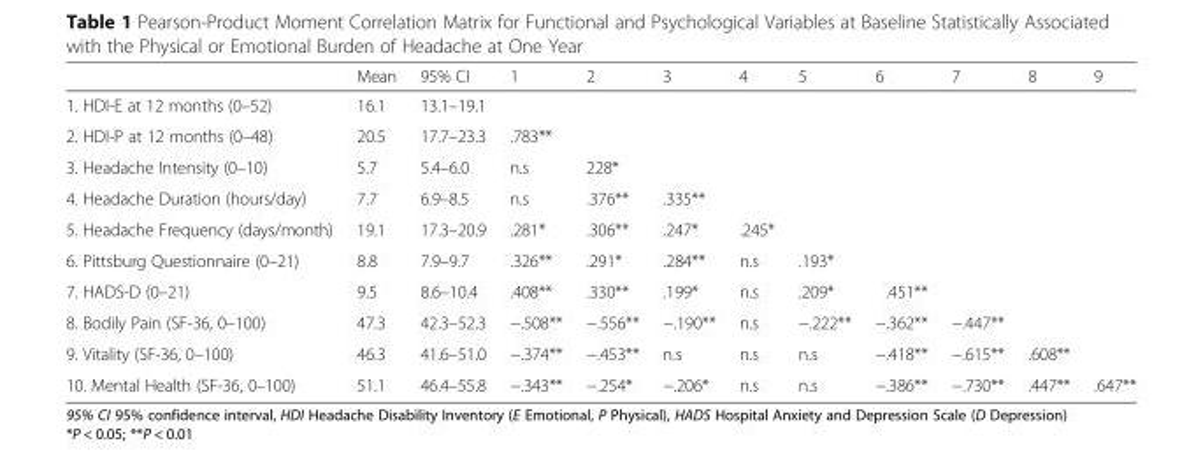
<table><thead><tr><td></td><td>Mean</td><td>95% CI</td><td>1</td><td>2</td><td>3</td><td>4</td><td>5</td><td>6</td><td>7</td><td>8</td><td>9</td></tr></thead><tbody><tr><td>1. HDI-E at 12 months (0–52)</td><td>16.1</td><td>13.1–19.1</td><td></td><td></td><td></td><td></td><td></td><td></td><td></td><td></td><td></td></tr><tr><td>2. HDI-P at 12 months (0–48)</td><td>20.5</td><td>17.7–23.3</td><td>.783**</td><td></td><td></td><td></td><td></td><td></td><td></td><td></td><td></td></tr><tr><td>3. Headache Intensity (0–10)</td><td>5.7</td><td>5.4–6.0</td><td>n.s</td><td>228*</td><td></td><td></td><td></td><td></td><td></td><td></td><td></td></tr><tr><td>4. Headache Duration (hours/day)</td><td>7.7</td><td>6.9–8.5</td><td>n.s</td><td>.376**</td><td>.335**</td><td></td><td></td><td></td><td></td><td></td><td></td></tr><tr><td>5. Headache Frequency (days/month)</td><td>19.1</td><td>17.3–20.9</td><td>.281*</td><td>.306**</td><td>.247*</td><td>.245*</td><td></td><td></td><td></td><td></td><td></td></tr><tr><td>6. Pittsburg Questionnaire (0–21)</td><td>8.8</td><td>7.9–9.7</td><td>.326**</td><td>.291*</td><td>.284**</td><td>n.s</td><td>.193*</td><td></td><td></td><td></td><td></td></tr><tr><td>7. HADS-D (0–21)</td><td>9.5</td><td>8.6–10.4</td><td>.408**</td><td>.330**</td><td>.199*</td><td>n.s</td><td>.209*</td><td>.451**</td><td></td><td></td><td></td></tr><tr><td>8. Bodily Pain (SF-36, 0–100)</td><td>47.3</td><td>42.3–52.3</td><td>−.508**</td><td>−.556**</td><td>−.190**</td><td>n.s</td><td>−.222**</td><td>−.362**</td><td>−.447**</td><td></td><td></td></tr><tr><td>9. Vitality (SF-36, 0–100)</td><td>46.3</td><td>41.6–51.0</td><td>−.374**</td><td>−.453**</td><td>n.s</td><td>n.s</td><td>n.s</td><td>−.418**</td><td>−.615**</td><td>.608**</td><td></td></tr><tr><td>10. Mental Health (SF-36, 0–100)</td><td>51.1</td><td>46.4–55.8</td><td>−.343**</td><td>−.254*</td><td>−.206*</td><td>n.s</td><td>n.s</td><td>−.386**</td><td>−.730**</td><td>.447**</td><td>.647**</td></tr></tbody></table>